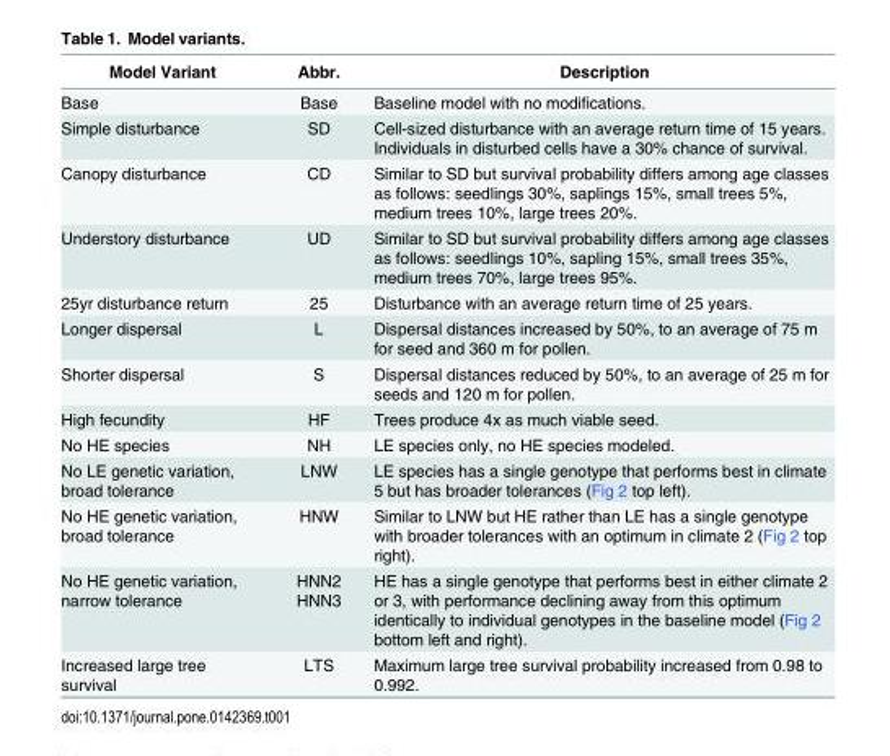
<table><thead><tr><td>Model Variant</td><td>Abbr.</td><td>Description</td></tr></thead><tbody><tr><td>Base</td><td>Base</td><td>Baseline model with no modifications.</td></tr><tr><td>Simple disturbance</td><td>SD</td><td>Cell-sized disturbance with an average return time of 15 years. Individuals in disturbed cells have a 30% chance of survival.</td></tr><tr><td>Canopy disturbance</td><td>CD</td><td>Similar to SD but survival probability differs among age classes as follows: seedlings 30%, saplings 15%, small trees 5%, medium trees 10%, large trees 20%.</td></tr><tr><td>Understory disturbance</td><td>UD</td><td>Similar to SD but survival probability differs among age classes as follows: seedlings 10%, sapling 15%, small trees 35%, medium trees 70%, large trees 95%.</td></tr><tr><td>25yr disturbance return</td><td>25</td><td>Disturbance with an average return time of 25 years.</td></tr><tr><td>Longer dispersal</td><td>L</td><td>Dispersal distances increased by 50%, to an average of 75 m for seed and 360 m for pollen.</td></tr><tr><td>Shorter dispersal</td><td>S</td><td>Dispersal distances reduced by 50%, to an average of 25 m for seeds and 120 m for pollen.</td></tr><tr><td>High fecundity</td><td>HF</td><td>Trees produce 4x as much viable seed.</td></tr><tr><td>No HE species</td><td>NH</td><td>LE species only, no HE species modeled.</td></tr><tr><td>No LE genetic variation, broad tolerance</td><td>LNW</td><td>LE species has a single genotype that performs best in climate 5 but has broader tolerances (Fig 2 top left).</td></tr><tr><td>No HE genetic variation, broad tolerance</td><td>HNW</td><td>Similar to LNW but HE rather than LE has a single genotype with broader tolerances with an optimum in climate 2 (Fig 2 top right).</td></tr><tr><td>No HE genetic variation, narrow tolerance</td><td>HNN2 HNN3</td><td>HE has a single genotype that performs best in either climate 2 or 3, with performance declining away from this optimum identically to individual genotypes in the baseline model (Fig 2 bottom left and right).</td></tr><tr><td>Increased large tree survival</td><td>LTS</td><td>Maximum large tree survival probability increased from 0.98 to 0.992.</td></tr></tbody></table>